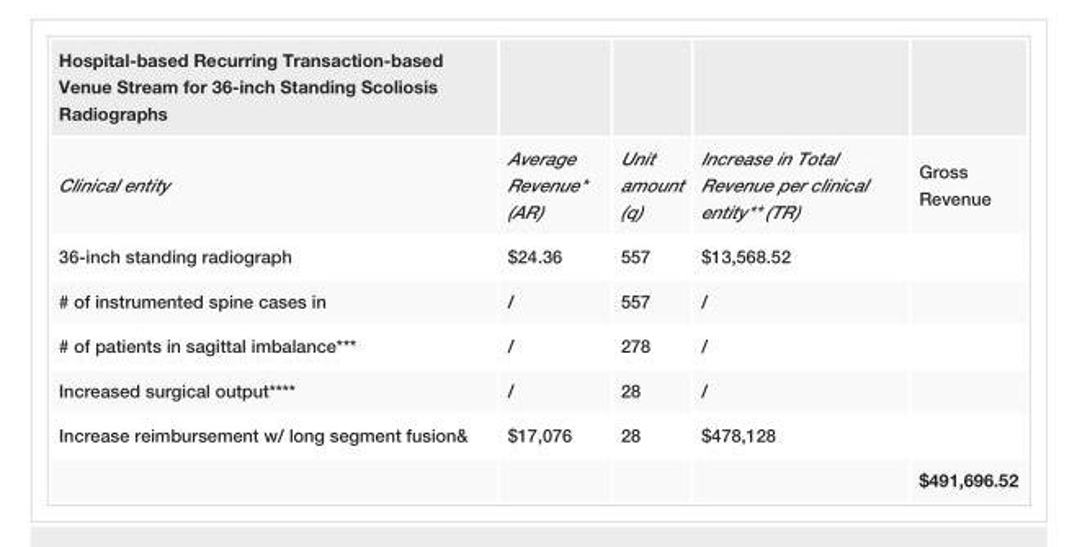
<table><tbody><tr><td colspan="5">Hospital-based Recurring Transaction-based Venue Stream for 36-inch Standing Scoliosis Radiographs</td></tr><tr><td>Clinical entity</td><td>Average Revenue* (AR)</td><td>Unit amount (q)</td><td>Increase in Total Revenue per clinical entity** (TR)</td><td>Gross Revenue</td></tr><tr><td>36-inch standing radiograph</td><td>$24.36</td><td>557</td><td>$13,568.52</td><td></td></tr><tr><td># of instrumented spine cases in</td><td>/</td><td>557</td><td>/</td><td></td></tr><tr><td># of patients in sagittal imbalance***</td><td>/</td><td>278</td><td>/</td><td></td></tr><tr><td>Increased surgical output****</td><td>/</td><td>28</td><td>/</td><td></td></tr><tr><td rowspan="2">Increase reimbursement w/ long segment fusion&amp;</td><td>$17,076</td><td>28</td><td>$478,128</td><td></td></tr><tr><td></td><td></td><td></td><td>$491,696.52</td></tr></tbody></table>